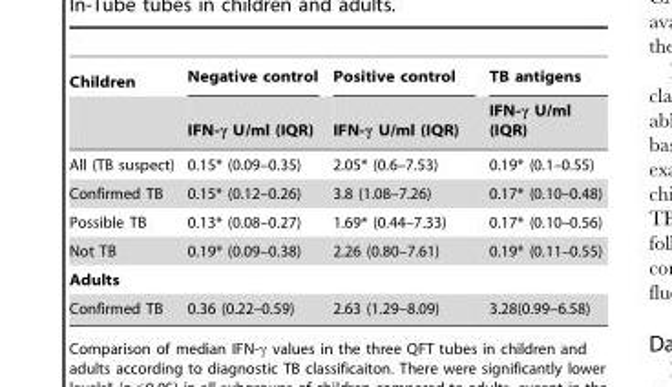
<table><thead><tr><td rowspan="2">Children</td><td rowspan="2">Negative control IFN-γ U/ml (IQR)</td><td rowspan="2">Positive control IFN-γ U/ml (IQR)</td><td rowspan="2">TB antigens IFN-γ U/ml (IQR)</td></tr><tr></tr></thead><tbody><tr><td>All (TB suspect)</td><td>0.15* (0.09–0.35)</td><td>2.05* (0.6–7.53)</td><td>0.19* (0.1–0.55)</td></tr><tr><td>Confirmed TB</td><td>0.15* (0.12–0.26)</td><td>3.8 (1.08–7.26)</td><td>0.17* (0.10–0.48)</td></tr><tr><td>Possible TB</td><td>0.13* (0.08–0.27)</td><td>1.69* (0.44–7.33)</td><td>0.17* (0.10–0.56)</td></tr><tr><td>Not TB</td><td>0.19* (0.09–0.38)</td><td>2.26 (0.80–7.61)</td><td>0.19* (0.11–0.55)</td></tr><tr><td colspan="4">Adults</td></tr><tr><td>Confirmed TB</td><td>0.36 (0.22–0.59)</td><td>2.63 (1.29–8.09)</td><td>3.28(0.99–6.58)</td></tr></tbody></table>